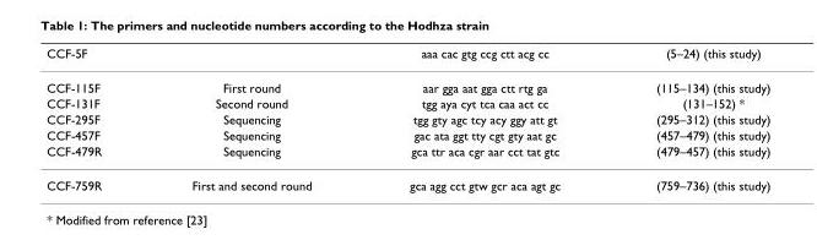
<table><thead><tr><td>CCF-5F</td><td></td><td>aaa cac gtg ccg ctt acg cc</td><td>(5–24) (this study)</td></tr></thead><tbody><tr><td>CCF-115F</td><td>First round</td><td>aar gga aat gga ctt rtg ga</td><td>(115–134) (this study)</td></tr><tr><td>CCF-131F</td><td>Second round</td><td>tgg aya cyt tca caa act cc</td><td>(131–152) *</td></tr><tr><td>CCF-295F</td><td>Sequencing</td><td>tgg gty agc tcy acy ggy att gt</td><td>(295–312) (this study)</td></tr><tr><td>CCF-457F</td><td>Sequencing</td><td>gac ata ggt tty cgt gty aat gc</td><td>(457–479) (this study)</td></tr><tr><td>CCF-479R</td><td>Sequencing</td><td>gca ttr aca cgr aar cct tat gtc</td><td>(479–457) (this study)</td></tr><tr><td>CCF-759R</td><td>First and second round</td><td>gca agg cct gtw gcr aca agt gc</td><td>(759–736) (this study)</td></tr></tbody></table>